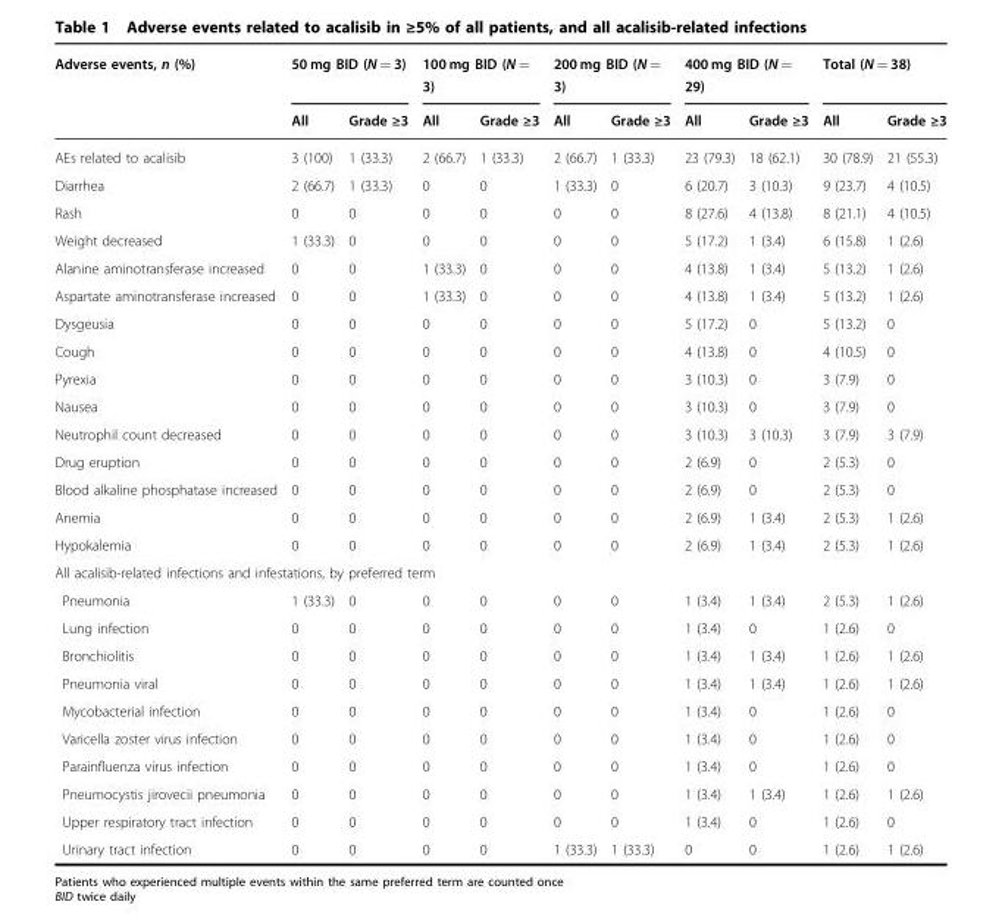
<table><thead><tr><td rowspan="2">Adverse events, n (%)</td><td colspan="2">50 mg BID (N = 3)</td><td colspan="2">100 mg BID (N = 3)</td><td colspan="2">200 mg BID (N = 3)</td><td colspan="2">400 mg BID (N = 29)</td><td colspan="2">Total (N = 38)</td></tr><tr><td>All</td><td>Grade ≥3</td><td>All</td><td>Grade ≥3</td><td>All</td><td>Grade ≥3</td><td>All</td><td>Grade ≥3</td><td>All</td><td>Grade ≥3</td></tr></thead><tbody><tr><td>AEs related to acalisib</td><td>3 (100)</td><td>1 (33.3)</td><td>2 (66.7)</td><td>1 (33.3)</td><td>2 (66.7)</td><td>1 (33.3)</td><td>23 (79.3)</td><td>18 (62.1)</td><td>30 (78.9)</td><td>21 (55.3)</td></tr><tr><td>Diarrhea</td><td>2 (66.7)</td><td>1 (33.3)</td><td>0</td><td>0</td><td>1 (33.3)</td><td>0</td><td>6 (20.7)</td><td>3 (10.3)</td><td>9 (23.7)</td><td>4 (10.5)</td></tr><tr><td>Rash</td><td>0</td><td>0</td><td>0</td><td>0</td><td>0</td><td>0</td><td>8 (27.6)</td><td>4 (13.8)</td><td>8 (21.1)</td><td>4 (10.5)</td></tr><tr><td>Weight decreased</td><td>1 (33.3)</td><td>0</td><td>0</td><td>0</td><td>0</td><td>0</td><td>5 (17.2)</td><td>1 (3.4)</td><td>6 (15.8)</td><td>1 (2.6)</td></tr><tr><td>Alanine aminotransferase increased</td><td>0</td><td>0</td><td>1 (33.3)</td><td>0</td><td>0</td><td>0</td><td>4 (13.8)</td><td>1 (3.4)</td><td>5 (13.2)</td><td>1 (2.6)</td></tr><tr><td>Aspartate aminotransferase increased</td><td>0</td><td>0</td><td>1 (33.3)</td><td>0</td><td>0</td><td>0</td><td>4 (13.8)</td><td>1 (3.4)</td><td>5 (13.2)</td><td>1 (2.6)</td></tr><tr><td>Dysgeusia</td><td>0</td><td>0</td><td>0</td><td>0</td><td>0</td><td>0</td><td>5 (17.2)</td><td>0</td><td>5 (13.2)</td><td>0</td></tr><tr><td>Cough</td><td>0</td><td>0</td><td>0</td><td>0</td><td>0</td><td>0</td><td>4 (13.8)</td><td>0</td><td>4 (10.5)</td><td>0</td></tr><tr><td>Pyrexia</td><td>0</td><td>0</td><td>0</td><td>0</td><td>0</td><td>0</td><td>3 (10.3)</td><td>0</td><td>3 (7.9)</td><td>0</td></tr><tr><td>Nausea</td><td>0</td><td>0</td><td>0</td><td>0</td><td>0</td><td>0</td><td>3 (10.3)</td><td>0</td><td>3 (7.9)</td><td>0</td></tr><tr><td>Neutrophil count decreased</td><td>0</td><td>0</td><td>0</td><td>0</td><td>0</td><td>0</td><td>3 (10.3)</td><td>3 (10.3)</td><td>3 (7.9)</td><td>3 (7.9)</td></tr><tr><td>Drug eruption</td><td>0</td><td>0</td><td>0</td><td>0</td><td>0</td><td>0</td><td>2 (6.9)</td><td>0</td><td>2 (5.3)</td><td>0</td></tr><tr><td>Blood alkaline phosphatase increased</td><td>0</td><td>0</td><td>0</td><td>0</td><td>0</td><td>0</td><td>2 (6.9)</td><td>0</td><td>2 (5.3)</td><td>0</td></tr><tr><td>Anemia</td><td>0</td><td>0</td><td>0</td><td>0</td><td>0</td><td>0</td><td>2 (6.9)</td><td>1 (3.4)</td><td>2 (5.3)</td><td>1 (2.6)</td></tr><tr><td>Hypokalemia</td><td>0</td><td>0</td><td>0</td><td>0</td><td>0</td><td>0</td><td>2 (6.9)</td><td>1 (3.4)</td><td>2 (5.3)</td><td>1 (2.6)</td></tr><tr><td colspan="11">All acalisib-related infections and infestations, by preferred term</td></tr><tr><td>Pneumonia</td><td>1 (33.3)</td><td>0</td><td>0</td><td>0</td><td>0</td><td>0</td><td>1 (3.4)</td><td>1 (3.4)</td><td>2 (5.3)</td><td>1 (2.6)</td></tr><tr><td>Lung infection</td><td>0</td><td>0</td><td>0</td><td>0</td><td>0</td><td>0</td><td>1 (3.4)</td><td>0</td><td>1 (2.6)</td><td>0</td></tr><tr><td>Bronchiolitis</td><td>0</td><td>0</td><td>0</td><td>0</td><td>0</td><td>0</td><td>1 (3.4)</td><td>1 (3.4)</td><td>1 (2.6)</td><td>1 (2.6)</td></tr><tr><td>Pneumonia viral</td><td>0</td><td>0</td><td>0</td><td>0</td><td>0</td><td>0</td><td>1 (3.4)</td><td>1 (3.4)</td><td>1 (2.6)</td><td>1 (2.6)</td></tr><tr><td>Mycobacterial infection</td><td>0</td><td>0</td><td>0</td><td>0</td><td>0</td><td>0</td><td>1 (3.4)</td><td>0</td><td>1 (2.6)</td><td>0</td></tr><tr><td>Varicella zoster virus infection</td><td>0</td><td>0</td><td>0</td><td>0</td><td>0</td><td>0</td><td>1 (3.4)</td><td>0</td><td>1 (2.6)</td><td>0</td></tr><tr><td>Parainfluenza virus infection</td><td>0</td><td>0</td><td>0</td><td>0</td><td>0</td><td>0</td><td>1 (3.4)</td><td>0</td><td>1 (2.6)</td><td>0</td></tr><tr><td>Pneumocystis jirovecii pneumonia</td><td>0</td><td>0</td><td>0</td><td>0</td><td>0</td><td>0</td><td>1 (3.4)</td><td>1 (3.4)</td><td>1 (2.6)</td><td>1 (2.6)</td></tr><tr><td>Upper respiratory tract infection</td><td>0</td><td>0</td><td>0</td><td>0</td><td>0</td><td>0</td><td>1 (3.4)</td><td>0</td><td>1 (2.6)</td><td>0</td></tr><tr><td>Urinary tract infection</td><td>0</td><td>0</td><td>0</td><td>0</td><td>1 (33.3)</td><td>1 (33.3)</td><td>0</td><td>0</td><td>1 (2.6)</td><td>1 (2.6)</td></tr></tbody></table>